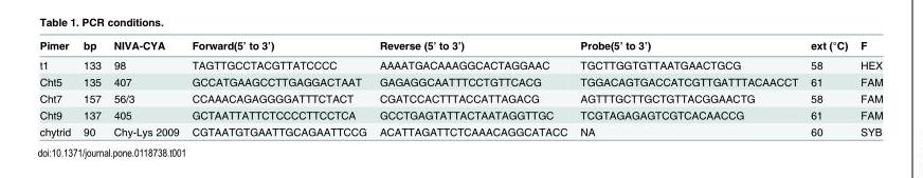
<table><thead><tr><td>Pimer</td><td>bp</td><td>NIVA-CYA</td><td>Forward(5’ to 3’)</td><td>Reverse (5’ to 3’)</td><td>Probe(5’ to 3’)</td><td>ext (°C)</td><td>F</td></tr></thead><tbody><tr><td>t1</td><td>133</td><td>98</td><td>TAGTTGCCTACGTTATCCCC</td><td>AAAATGACAAAGGCACTAGGAAC</td><td>TGCTTGGTGTTAATGAACTGCG</td><td>58</td><td>HEX</td></tr><tr><td>Cht5</td><td>135</td><td>407</td><td>GCCATGAAGCCTTGAGGACTAAT</td><td>GAGAGGCAATTTCCTGTTCACG</td><td>TGGACAGTGACCATCGTTGATTTACAACCT</td><td>61</td><td>FAM</td></tr><tr><td>Cht7</td><td>157</td><td>56/3</td><td>CCAAACAGAGGGGATTTCTACT</td><td>CGATCCACTTTACCATTAGACG</td><td>AGTTTGCTTGCTGTTACGGAACTG</td><td>58</td><td>FAM</td></tr><tr><td>Cht9</td><td>137</td><td>405</td><td>GCTAATTATTCTCCCCTTCCTCA</td><td>GCCTGAGTATTACTAATAGGTTGC</td><td>TCGTAGAGAGTCGTCACAACCG</td><td>61</td><td>FAM</td></tr><tr><td>chytrid</td><td>90</td><td>Chy-Lys 2009</td><td>CGTAATGTGAATTGCAGAATTCCG</td><td>ACATTAGATTCTCAAACAGGCATACC</td><td>NA</td><td>60</td><td>SYB</td></tr></tbody></table>